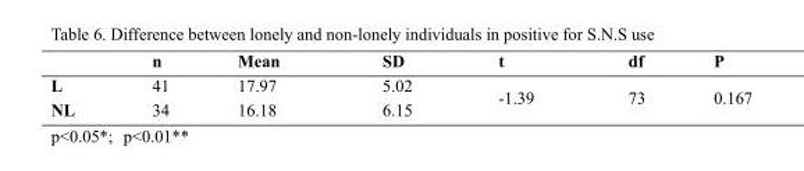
<table><thead><tr><td></td><td>n</td><td>Mean</td><td>SD</td><td>t</td><td>df</td><td>P</td></tr></thead><tbody><tr><td>L</td><td>41</td><td>17.97</td><td>5.02</td><td rowspan="2">-1.39</td><td rowspan="2">73</td><td rowspan="2">0.167</td></tr><tr><td>NL</td><td>34</td><td>16.18</td><td>6.15</td></tr></tbody></table>